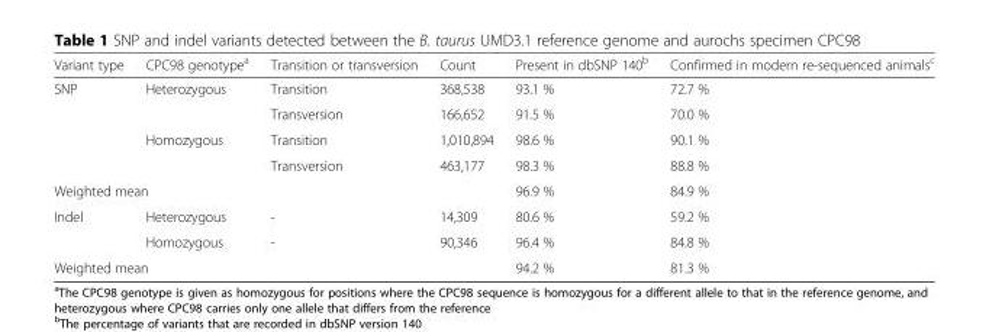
<table><thead><tr><td>Variant type</td><td>CPC98 genotype<sup>a</sup></td><td>Transition or transversion</td><td>Count</td><td>Present in dbSNP 140<sup>b</sup></td><td>Confirmed in modern re-sequenced animals<sup>c</sup></td></tr></thead><tbody><tr><td rowspan="4">SNP</td><td rowspan="2">Heterozygous</td><td>Transition</td><td>368,538</td><td>93.1 %</td><td>72.7 %</td></tr><tr><td>Transversion</td><td>166,652</td><td>91.5 %</td><td>70.0 %</td></tr><tr><td rowspan="2">Homozygous</td><td>Transition</td><td>1,010,894</td><td>98.6 %</td><td>90.1 %</td></tr><tr><td>Transversion</td><td>463,177</td><td>98.3 %</td><td>88.8 %</td></tr><tr><td colspan="4">Weighted mean</td><td>96.9 %</td><td>84.9 %</td></tr><tr><td rowspan="2">Indel</td><td>Heterozygous</td><td>-</td><td>14,309</td><td>80.6 %</td><td>59.2 %</td></tr><tr><td>Homozygous</td><td>-</td><td>90,346</td><td>96.4 %</td><td>84.8 %</td></tr><tr><td colspan="4">Weighted mean</td><td>94.2 %</td><td>81.3 %</td></tr></tbody></table>